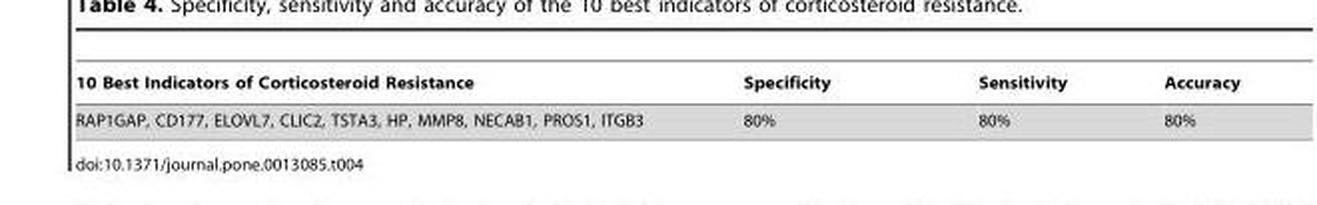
<table><thead><tr><td>10 Best Indicators of Corticosteroid Resistance</td><td>Specificity</td><td>Sensitivity</td><td>Accuracy</td></tr></thead><tbody><tr><td>RAP1GAP, CD177, ELOVL7, CLIC2, TSTA3, HP, MMP8, NECAB1, PROS1, ITGB3</td><td>80%</td><td>80%</td><td>80%</td></tr></tbody></table>